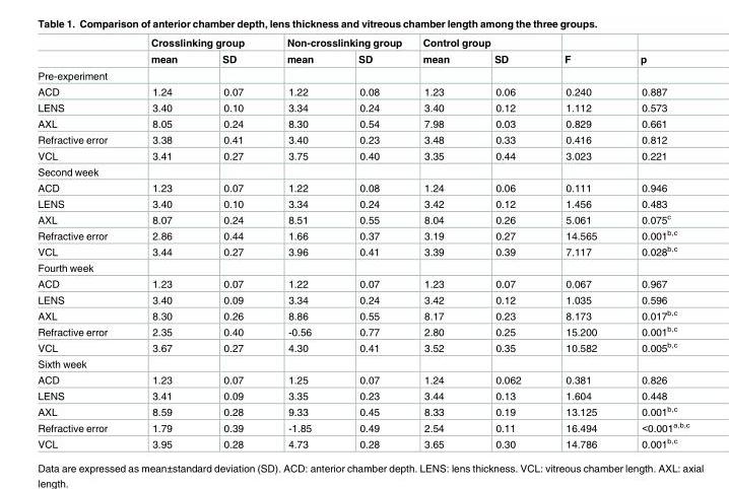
<table><thead><tr><td rowspan="2"></td><td colspan="2">Crosslinking group</td><td colspan="2">Non-crosslinking group</td><td colspan="2">Control group</td><td rowspan="2">F</td><td rowspan="2">p</td></tr><tr><td>mean</td><td>SD</td><td>mean</td><td>SD</td><td>mean</td><td>SD</td></tr></thead><tbody><tr><td colspan="9">Pre-experiment</td></tr><tr><td>ACD</td><td>1.24</td><td>0.07</td><td>1.22</td><td>0.08</td><td>1.23</td><td>0.06</td><td>0.240</td><td>0.887</td></tr><tr><td>LENS</td><td>3.40</td><td>0.10</td><td>3.34</td><td>0.24</td><td>3.40</td><td>0.12</td><td>1.112</td><td>0.573</td></tr><tr><td>AXL</td><td>8.05</td><td>0.24</td><td>8.30</td><td>0.54</td><td>7.98</td><td>0.03</td><td>0.829</td><td>0.661</td></tr><tr><td>Refractive error</td><td>3.38</td><td>0.41</td><td>3.40</td><td>0.23</td><td>3.48</td><td>0.33</td><td>0.416</td><td>0.812</td></tr><tr><td>VCL</td><td>3.41</td><td>0.27</td><td>3.75</td><td>0.40</td><td>3.35</td><td>0.44</td><td>3.023</td><td>0.221</td></tr><tr><td colspan="9">Second week</td></tr><tr><td>ACD</td><td>1.23</td><td>0.07</td><td>1.22</td><td>0.08</td><td>1.24</td><td>0.06</td><td>0.111</td><td>0.946</td></tr><tr><td>LENS</td><td>3.40</td><td>0.10</td><td>3.34</td><td>0.24</td><td>3.42</td><td>0.12</td><td>1.456</td><td>0.483</td></tr><tr><td>AXL</td><td>8.07</td><td>0.24</td><td>8.51</td><td>0.55</td><td>8.04</td><td>0.26</td><td>5.061</td><td>0.075<sup>c</sup></td></tr><tr><td>Refractive error</td><td>2.86</td><td>0.44</td><td>1.66</td><td>0.37</td><td>3.19</td><td>0.27</td><td>14.565</td><td>0.001<sup>b,c</sup></td></tr><tr><td>VCL</td><td>3.44</td><td>0.27</td><td>3.96</td><td>0.41</td><td>3.39</td><td>0.39</td><td>7.117</td><td>0.028<sup>b,c</sup></td></tr><tr><td colspan="9">Fourth week</td></tr><tr><td>ACD</td><td>1.23</td><td>0.07</td><td>1.22</td><td>0.07</td><td>1.23</td><td>0.07</td><td>0.067</td><td>0.967</td></tr><tr><td>LENS</td><td>3.40</td><td>0.09</td><td>3.34</td><td>0.24</td><td>3.42</td><td>0.12</td><td>1.035</td><td>0.596</td></tr><tr><td>AXL</td><td>8.30</td><td>0.26</td><td>8.86</td><td>0.55</td><td>8.17</td><td>0.23</td><td>8.173</td><td>0.017<sup>b,c</sup></td></tr><tr><td>Refractive error</td><td>2.35</td><td>0.40</td><td>-0.56</td><td>0.77</td><td>2.80</td><td>0.25</td><td>15.200</td><td>0.001<sup>b,c</sup></td></tr><tr><td>VCL</td><td>3.67</td><td>0.27</td><td>4.30</td><td>0.41</td><td>3.52</td><td>0.35</td><td>10.582</td><td>0.005<sup>b,c</sup></td></tr><tr><td colspan="9">Sixth week</td></tr><tr><td>ACD</td><td>1.23</td><td>0.07</td><td>1.25</td><td>0.07</td><td>1.24</td><td>0.062</td><td>0.381</td><td>0.826</td></tr><tr><td>LENS</td><td>3.41</td><td>0.09</td><td>3.35</td><td>0.23</td><td>3.44</td><td>0.13</td><td>1.604</td><td>0.448</td></tr><tr><td>AXL</td><td>8.59</td><td>0.28</td><td>9.33</td><td>0.45</td><td>8.33</td><td>0.19</td><td>13.125</td><td>0.001<sup>b,c</sup></td></tr><tr><td>Refractive error</td><td>1.79</td><td>0.39</td><td>-1.85</td><td>0.49</td><td>2.54</td><td>0.11</td><td>16.494</td><td>&lt;0.001<sup>a,b,c</sup></td></tr><tr><td>VCL</td><td>3.95</td><td>0.28</td><td>4.73</td><td>0.28</td><td>3.65</td><td>0.30</td><td>14.786</td><td>0.001<sup>b,c</sup></td></tr></tbody></table>